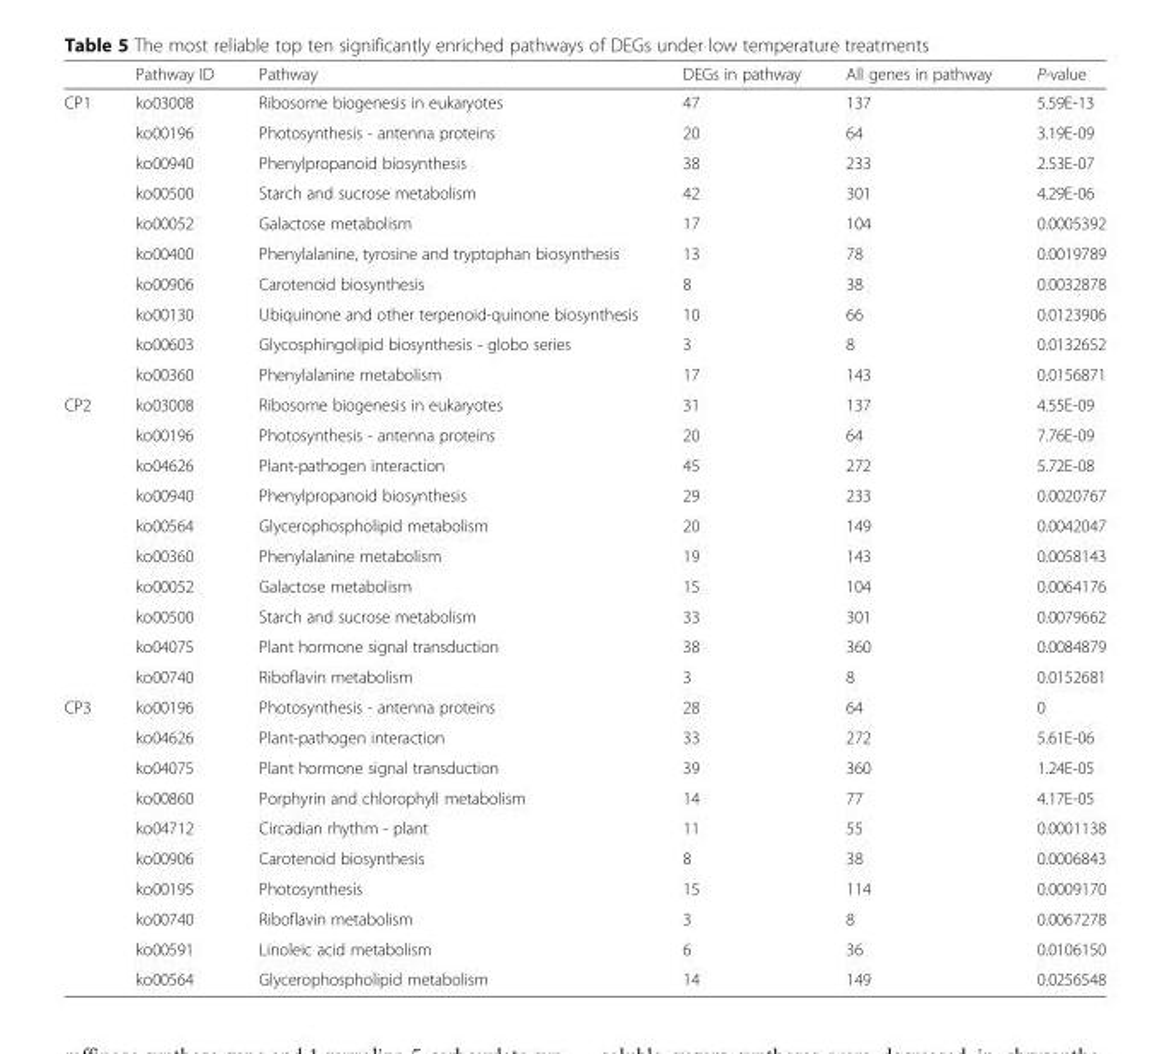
<table><thead><tr><td></td><td>Pathway ID</td><td>Pathway</td><td>DEGs in pathway</td><td>All genes in pathway</td><td>P-value</td></tr></thead><tbody><tr><td rowspan="10">CP1</td><td>ko03008</td><td>Ribosome biogenesis in eukaryotes</td><td>47</td><td>137</td><td>5.59E-13</td></tr><tr><td>ko00196</td><td>Photosynthesis - antenna proteins</td><td>20</td><td>64</td><td>3.19E-09</td></tr><tr><td>ko00940</td><td>Phenylpropanoid biosynthesis</td><td>38</td><td>233</td><td>2.53E-07</td></tr><tr><td>ko00500</td><td>Starch and sucrose metabolism</td><td>42</td><td>301</td><td>4.29E-06</td></tr><tr><td>ko00052</td><td>Galactose metabolism</td><td>17</td><td>104</td><td>0.0005392</td></tr><tr><td>ko00400</td><td>Phenylalanine, tyrosine and tryptophan biosynthesis</td><td>13</td><td>78</td><td>0.0019789</td></tr><tr><td>ko00906</td><td>Carotenoid biosynthesis</td><td>8</td><td>38</td><td>0.0032878</td></tr><tr><td>ko00130</td><td>Ubiquinone and other terpenoid-quinone biosynthesis</td><td>10</td><td>66</td><td>0.0123906</td></tr><tr><td>ko00603</td><td>Glycosphingolipid biosynthesis - globo series</td><td>3</td><td>8</td><td>0.0132652</td></tr><tr><td>ko00360</td><td>Phenylalanine metabolism</td><td>17</td><td>143</td><td>0.0156871</td></tr><tr><td rowspan="10">CP2</td><td>ko03008</td><td>Ribosome biogenesis in eukaryotes</td><td>31</td><td>137</td><td>4.55E-09</td></tr><tr><td>ko00196</td><td>Photosynthesis - antenna proteins</td><td>20</td><td>64</td><td>7.76E-09</td></tr><tr><td>ko04626</td><td>Plant-pathogen interaction</td><td>45</td><td>272</td><td>5.72E-08</td></tr><tr><td>ko00940</td><td>Phenylpropanoid biosynthesis</td><td>29</td><td>233</td><td>0.0020767</td></tr><tr><td>ko00564</td><td>Glycerophospholipid metabolism</td><td>20</td><td>149</td><td>0.0042047</td></tr><tr><td>ko00360</td><td>Phenylalanine metabolism</td><td>19</td><td>143</td><td>0.0058143</td></tr><tr><td>ko00052</td><td>Galactose metabolism</td><td>15</td><td>104</td><td>0.0064176</td></tr><tr><td>ko00500</td><td>Starch and sucrose metabolism</td><td>33</td><td>301</td><td>0.0079662</td></tr><tr><td>ko04075</td><td>Plant hormone signal transduction</td><td>38</td><td>360</td><td>0.0084879</td></tr><tr><td>ko00740</td><td>Riboflavin metabolism</td><td>3</td><td>8</td><td>0.0152681</td></tr><tr><td rowspan="10">CP3</td><td>ko00196</td><td>Photosynthesis - antenna proteins</td><td>28</td><td>64</td><td>0</td></tr><tr><td>ko04626</td><td>Plant-pathogen interaction</td><td>33</td><td>272</td><td>5.61E-06</td></tr><tr><td>ko04075</td><td>Plant hormone signal transduction</td><td>39</td><td>360</td><td>1.24E-05</td></tr><tr><td>ko00860</td><td>Porphyrin and chlorophyll metabolism</td><td>14</td><td>77</td><td>4.17E-05</td></tr><tr><td>ko04712</td><td>Circadian rhythm - plant</td><td>11</td><td>55</td><td>0.0001138</td></tr><tr><td>ko00906</td><td>Carotenoid biosynthesis</td><td>8</td><td>38</td><td>0.0006843</td></tr><tr><td>ko00195</td><td>Photosynthesis</td><td>15</td><td>114</td><td>0.0009170</td></tr><tr><td>ko00740</td><td>Riboflavin metabolism</td><td>3</td><td>8</td><td>0.0067278</td></tr><tr><td>ko00591</td><td>Linoleic acid metabolism</td><td>6</td><td>36</td><td>0.0106150</td></tr><tr><td>ko00564</td><td>Glycerophospholipid metabolism</td><td>14</td><td>149</td><td>0.0256548</td></tr></tbody></table>